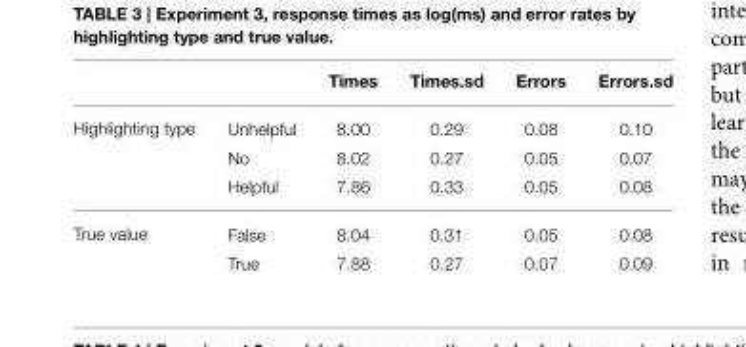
<table><thead><tr><td></td><td></td><td>Times</td><td>Times.sd</td><td>Errors</td><td>Errors.sd</td></tr></thead><tbody><tr><td rowspan="3">Highlighting type</td><td>Unhelpful</td><td>8.00</td><td>0.29</td><td>0.08</td><td>0.10</td></tr><tr><td>No</td><td>8.02</td><td>0.27</td><td>0.05</td><td>0.07</td></tr><tr><td>Helpful</td><td>7.86</td><td>0.33</td><td>0.05</td><td>0.08</td></tr><tr><td rowspan="2">True value</td><td>False</td><td>8.04</td><td>0.31</td><td>0.05</td><td>0.08</td></tr><tr><td>True</td><td>7.88</td><td>0.27</td><td>0.07</td><td>0.09</td></tr></tbody></table>